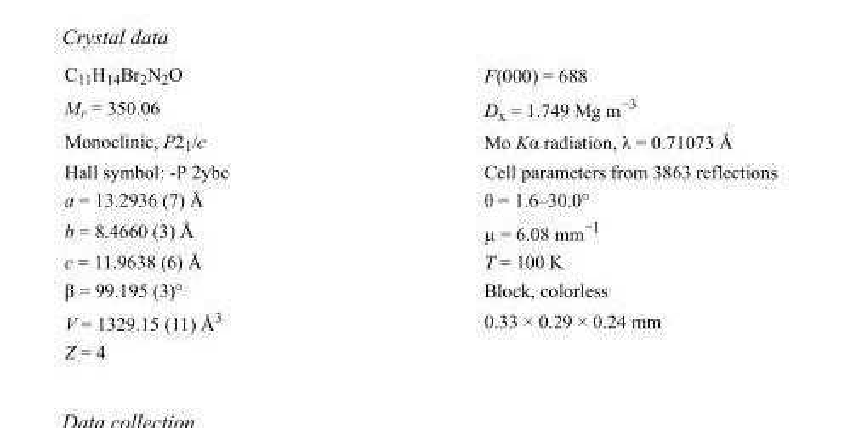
<table><tbody><tr><td>C<sub>11</sub>H<sub>14</sub>Br<sub>2</sub>N<sub>2</sub>O</td><td>F(000) = 688</td></tr><tr><td>M<sub>r</sub> = 350.06</td><td>D<sub>x</sub> = 1.749 Mg m<sup>−3</sup></td></tr><tr><td>Monoclinic, P2<sub>1</sub>/c</td><td>Mo Kα radiation, λ = 0.71073 Å</td></tr><tr><td>Hall symbol: -P 2ybc</td><td>Cell parameters from 3863 reflections</td></tr><tr><td>a = 13.2936 (7) Å</td><td>θ = 1.6–30.0°</td></tr><tr><td>b = 8.4660 (3) Å</td><td>µ = 6.08 mm<sup>−1</sup></td></tr><tr><td>c = 11.9638 (6) Å</td><td>T = 100 K</td></tr><tr><td>β = 99.195 (3)°</td><td>Block, colorless</td></tr><tr><td>V = 1329.15 (11) Å<sup>3</sup></td><td>0.33 × 0.29 × 0.24 mm</td></tr><tr><td>Z = 4</td><td></td></tr></tbody></table>